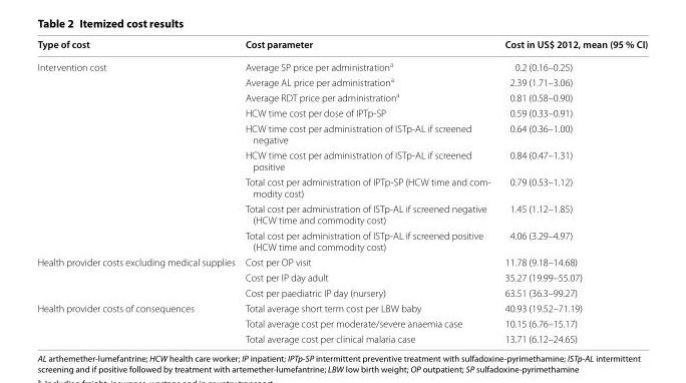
<table><thead><tr><td>Type of cost</td><td>Cost parameter</td><td>Cost in US$ 2012, mean (95 % CI)</td></tr></thead><tbody><tr><td rowspan="9">Intervention cost</td><td>Average SP price per administration<sup>a</sup></td><td>0.2 (0.16–0.25)</td></tr><tr><td>Average AL price per administration<sup>a</sup></td><td>2.39 (1.71–3.06)</td></tr><tr><td>Average RDT price per administration<sup>a</sup></td><td>0.81 (0.58–0.90)</td></tr><tr><td>HCW time cost per dose of IPTp-SP</td><td>0.59 (0.33–0.91)</td></tr><tr><td>HCW time cost per administration of ISTp-AL if screened negative</td><td>0.64 (0.36–1.00)</td></tr><tr><td>HCW time cost per administration of ISTp-AL if screened positive</td><td>0.84 (0.47–1.31)</td></tr><tr><td>Total cost per administration of IPTp-SP (HCW time and com- modity cost)</td><td>0.79 (0.53–1.12)</td></tr><tr><td>Total cost per administration of ISTp-AL if screened negative (HCW time and commodity cost)</td><td>1.45 (1.12–1.85)</td></tr><tr><td>Total cost per administration of ISTp-AL if screened positive (HCW time and commodity cost)</td><td>4.06 (3.29–4.97)</td></tr><tr><td rowspan="3">Health provider costs excluding medical supplies</td><td>Cost per OP visit</td><td>11.78 (9.18–14.68)</td></tr><tr><td>Cost per IP day adult</td><td>35.27 (19.99–55.07)</td></tr><tr><td>Cost per paediatric IP day (nursery)</td><td>63.51 (36.3–99.27)</td></tr><tr><td rowspan="3">Health provider costs of consequences</td><td>Total average short term cost per LBW baby</td><td>40.93 (19.52–71.19)</td></tr><tr><td>Total average cost per moderate/severe anaemia case</td><td>10.15 (6.76–15.17)</td></tr><tr><td>Total average cost per clinical malaria case</td><td>13.71 (6.12–24.65)</td></tr></tbody></table>